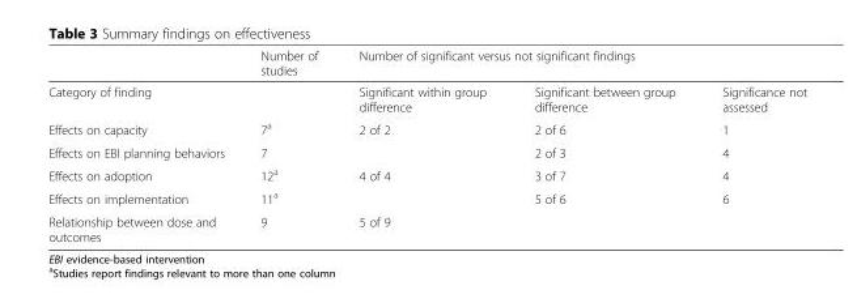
<table><thead><tr><td rowspan="2">Category of finding</td><td rowspan="2">Number of studies</td><td colspan="3">Number of significant versus not significant findings</td></tr><tr><td>Significant within group difference</td><td>Significant between group difference</td><td>Significance not assessed</td></tr></thead><tbody><tr><td>Effects on capacity</td><td>7<sup>a</sup></td><td>2 of 2</td><td>2 of 6</td><td>1</td></tr><tr><td>Effects on EBI planning behaviors</td><td>7</td><td></td><td>2 of 3</td><td>4</td></tr><tr><td>Effects on adoption</td><td>12<sup>a</sup></td><td>4 of 4</td><td>3 of 7</td><td>4</td></tr><tr><td>Effects on implementation</td><td>11<sup>a</sup></td><td></td><td>5 of 6</td><td>6</td></tr><tr><td>Relationship between dose and outcomes</td><td>9</td><td>5 of 9</td><td></td><td></td></tr></tbody></table>